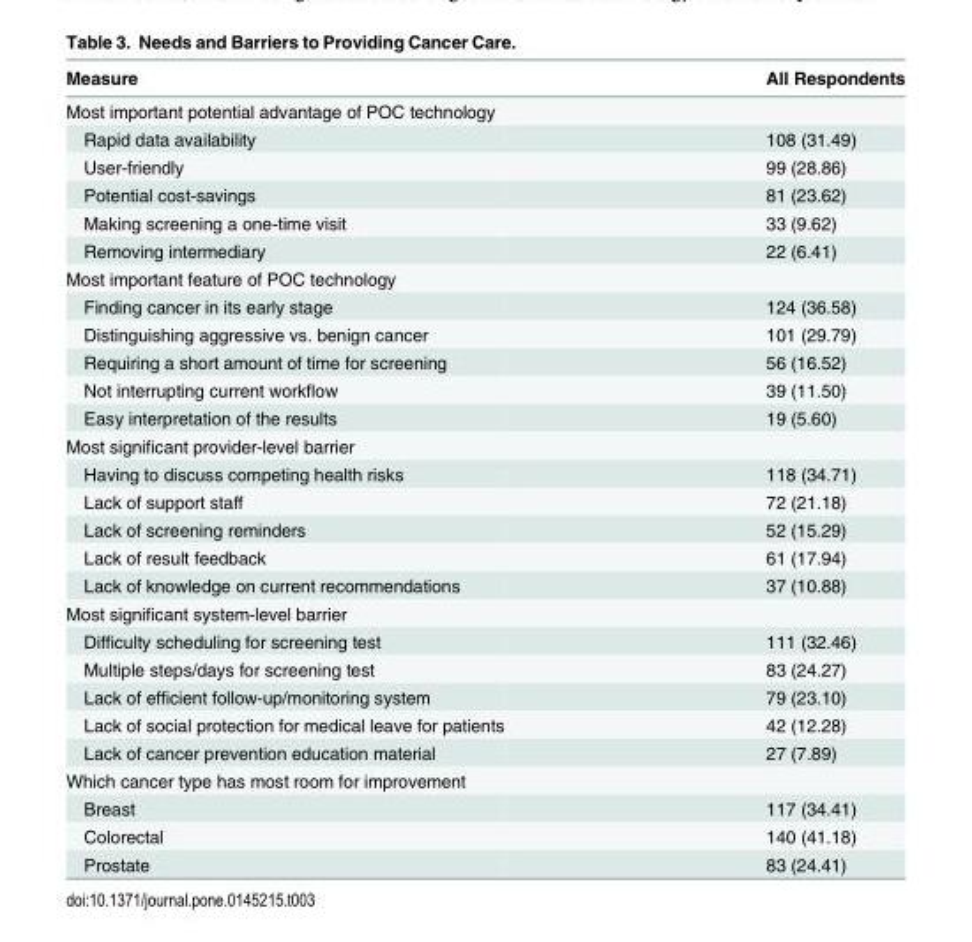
<table><thead><tr><td>Measure</td><td>All Respondents</td></tr></thead><tbody><tr><td colspan="2">Most important potential advantage of POC technology</td></tr><tr><td>Rapid data availability</td><td>108 (31.49)</td></tr><tr><td>User-friendly</td><td>99 (28.86)</td></tr><tr><td>Potential cost-savings</td><td>81 (23.62)</td></tr><tr><td>Making screening a one-time visit</td><td>33 (9.62)</td></tr><tr><td>Removing intermediary</td><td>22 (6.41)</td></tr><tr><td colspan="2">Most important feature of POC technology</td></tr><tr><td>Finding cancer in its early stage</td><td>124 (36.58)</td></tr><tr><td>Distinguishing aggressive vs. benign cancer</td><td>101 (29.79)</td></tr><tr><td>Requiring a short amount of time for screening</td><td>56 (16.52)</td></tr><tr><td>Not interrupting current workflow</td><td>39 (11.50)</td></tr><tr><td>Easy interpretation of the results</td><td>19 (5.60)</td></tr><tr><td colspan="2">Most significant provider-level barrier</td></tr><tr><td>Having to discuss competing health risks</td><td>118 (34.71)</td></tr><tr><td>Lack of support staff</td><td>72 (21.18)</td></tr><tr><td>Lack of screening reminders</td><td>52 (15.29)</td></tr><tr><td>Lack of result feedback</td><td>61 (17.94)</td></tr><tr><td>Lack of knowledge on current recommendations</td><td>37 (10.88)</td></tr><tr><td colspan="2">Most significant system-level barrier</td></tr><tr><td>Difficulty scheduling for screening test</td><td>111 (32.46)</td></tr><tr><td>Multiple steps/days for screening test</td><td>83 (24.27)</td></tr><tr><td>Lack of efficient follow-up/monitoring system</td><td>79 (23.10)</td></tr><tr><td>Lack of social protection for medical leave for patients</td><td>42 (12.28)</td></tr><tr><td>Lack of cancer prevention education material</td><td>27 (7.89)</td></tr><tr><td colspan="2">Which cancer type has most room for improvement</td></tr><tr><td>Breast</td><td>117 (34.41)</td></tr><tr><td>Colorectal</td><td>140 (41.18)</td></tr><tr><td>Prostate</td><td>83 (24.41)</td></tr></tbody></table>